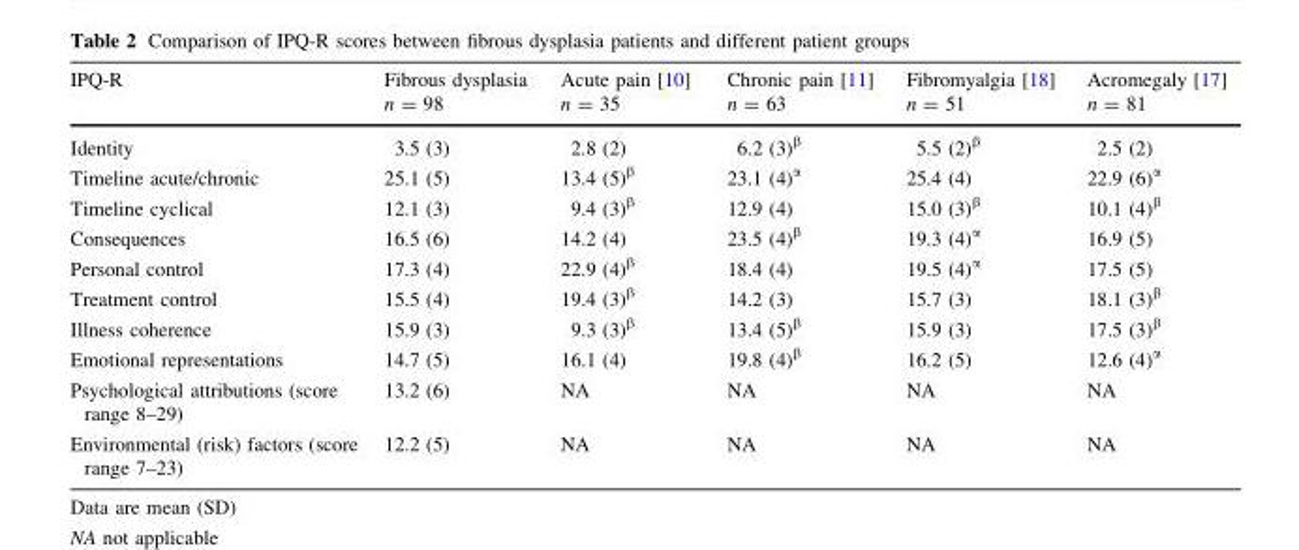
<table><thead><tr><td>IPQ-R</td><td>Fibrous dysplasia n = 98</td><td>Acute pain [10] n = 35</td><td>Chronic pain [11] n = 63</td><td>Fibromyalgia [18] n = 51</td><td>Acromegaly [17] n = 81</td></tr></thead><tbody><tr><td>Identity</td><td>3.5 (3)</td><td>2.8 (2)</td><td>6.2 (3)<sup>β</sup></td><td>5.5 (2)<sup>β</sup></td><td>2.5 (2)</td></tr><tr><td>Timeline acute/chronic</td><td>25.1 (5)</td><td>13.4 (5)<sup>β</sup></td><td>23.1 (4)<sup>α</sup></td><td>25.4 (4)</td><td>22.9 (6)<sup>α</sup></td></tr><tr><td>Timeline cyclical</td><td>12.1 (3)</td><td>9.4 (3)<sup>β</sup></td><td>12.9 (4)</td><td>15.0 (3)<sup>β</sup></td><td>10.1 (4)<sup>β</sup></td></tr><tr><td>Consequences</td><td>16.5 (6)</td><td>14.2 (4)</td><td>23.5 (4)<sup>β</sup></td><td>19.3 (4)<sup>α</sup></td><td>16.9 (5)</td></tr><tr><td>Personal control</td><td>17.3 (4)</td><td>22.9 (4)<sup>β</sup></td><td>18.4 (4)</td><td>19.5 (4)<sup>α</sup></td><td>17.5 (5)</td></tr><tr><td>Treatment control</td><td>15.5 (4)</td><td>19.4 (3)<sup>β</sup></td><td>14.2 (3)</td><td>15.7 (3)</td><td>18.1 (3)<sup>β</sup></td></tr><tr><td>Illness coherence</td><td>15.9 (3)</td><td>9.3 (3)<sup>β</sup></td><td>13.4 (5)<sup>β</sup></td><td>15.9 (3)</td><td>17.5 (3)<sup>β</sup></td></tr><tr><td>Emotional representations</td><td>14.7 (5)</td><td>16.1 (4)</td><td>19.8 (4)<sup>β</sup></td><td>16.2 (5)</td><td>12.6 (4)<sup>α</sup></td></tr><tr><td>Psychological attributions (score range 8–29)</td><td>13.2 (6)</td><td>NA</td><td>NA</td><td>NA</td><td>NA</td></tr><tr><td>Environmental (risk) factors (score range 7–23)</td><td>12.2 (5)</td><td>NA</td><td>NA</td><td>NA</td><td>NA</td></tr></tbody></table>